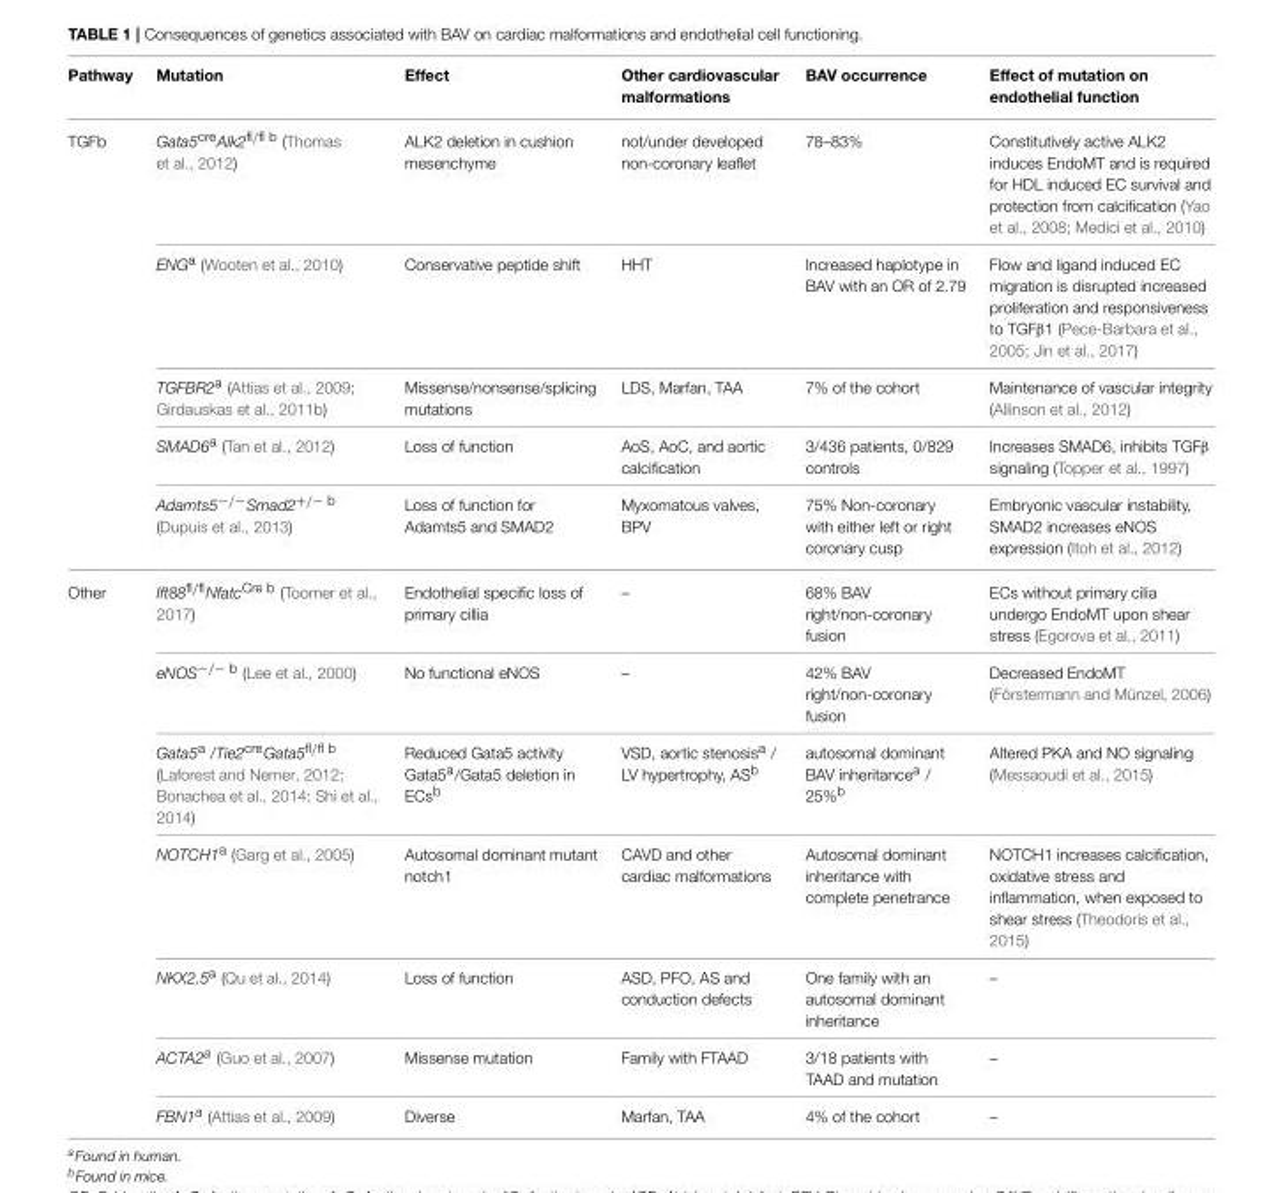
<table><thead><tr><td>Pathway</td><td>Mutation</td><td>Effect</td><td>Other cardiovascular malformations</td><td>BAV occurrence</td><td>Effect of mutation on endothelial function</td></tr></thead><tbody><tr><td rowspan="5">TGFb</td><td>Gata5<sup>cre</sup>Alk2<sup>fl/fl b</sup> (Thomas et al., 2012)</td><td>ALK2 deletion in cushion mesenchyme</td><td>not/under developed non-coronary leaflet</td><td>78–83%</td><td>Constitutively active ALK2 induces EndoMT and is required for HDL induced EC survival and protection from calcification (Yao et al., 2008; Medici et al., 2010)</td></tr><tr><td>ENG<sup>a</sup> (Wooten et al., 2010)</td><td>Conservative peptide shift</td><td>HHT</td><td>Increased haplotype in BAV with an OR of 2.79</td><td>Flow and ligand induced EC migration is disrupted increased proliferation and responsiveness to TGFβ1 (Pece-Barbara et al., 2005; Jin et al., 2017)</td></tr><tr><td>TGFBR2<sup>a</sup> (Attias et al., 2009; Girdauskas et al., 2011b)</td><td>Missense/nonsense/splicing mutations</td><td>LDS, Marfan, TAA</td><td>7% of the cohort</td><td>Maintenance of vascular integrity (Allinson et al., 2012)</td></tr><tr><td>SMAD6<sup>a</sup> (Tan et al., 2012)</td><td>Loss of function</td><td>AoS, AoC, and aortic calcification</td><td>3/436 patients, 0/829 controls</td><td>Increases SMAD6, inhibits TGFβ signaling (Topper et al., 1997)</td></tr><tr><td>Adamts5<sup>−/−</sup>Smad2<sup>+/− b</sup> (Dupuis et al., 2013)</td><td>Loss of function for Adamts5 and SMAD2</td><td>Myxomatous valves, BPV</td><td>75% Non-coronary with either left or right coronary cusp</td><td>Embryonic vascular instability, SMAD2 increases eNOS expression (Itoh et al., 2012)</td></tr><tr><td rowspan="7">Other</td><td>Ift88<sup>fl/fl</sup>Nfatc<sup>Cre b</sup> (Toomer et al., 2017)</td><td>Endothelial specific loss of primary cillia</td><td>–</td><td>68% BAV right/non-coronary fusion</td><td>ECs without primary cilia undergo EndoMT upon shear stress (Egorova et al., 2011)</td></tr><tr><td>eNOS<sup>−/− b</sup> (Lee et al., 2000)</td><td>No functional eNOS</td><td>–</td><td>42% BAV right/non-coronary fusion</td><td>Decreased EndoMT (Förstermann and Münzel, 2006)</td></tr><tr><td>Gata5<sup>a</sup> /Tie2<sup>cre</sup>Gata5<sup>fl/fl b</sup> (Laforest and Nemer, 2012; Bonachea et al., 2014; Shi et al., 2014)</td><td>Reduced Gata5 activity Gata5<sup>a</sup>/Gata5 deletion in ECs<sup>b</sup></td><td>VSD, aortic stenosis<sup>a</sup> / LV hypertrophy, AS<sup>b</sup></td><td>autosomal dominant BAV inheritance<sup>a</sup> / 25%<sup>b</sup></td><td>Altered PKA and NO signaling (Messaoudi et al., 2015)</td></tr><tr><td>NOTCH1<sup>a</sup> (Garg et al., 2005)</td><td>Autosomal dominant mutant notch1</td><td>CAVD and other cardiac malformations</td><td>Autosomal dominant inheritance with complete penetrance</td><td>NOTCH1 increases calcification, oxidative stress and inflammation, when exposed to shear stress (Theodoris et al., 2015)</td></tr><tr><td>NKX2.5<sup>a</sup> (Qu et al., 2014)</td><td>Loss of function</td><td>ASD, PFO, AS and conduction defects</td><td>One family with an autosomal dominant inheritance</td><td>–</td></tr><tr><td>ACTA2<sup>a</sup> (Guo et al., 2007)</td><td>Missense mutation</td><td>Family with FTAAD</td><td>3/18 patients with TAAD and mutation</td><td>–</td></tr><tr><td>FBN1<sup>a</sup> (Attias et al., 2009)</td><td>Diverse</td><td>Marfan, TAA</td><td>4% of the cohort</td><td>–</td></tr></tbody></table>